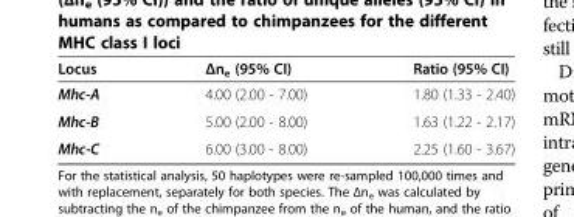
<table><thead><tr><td>Locus</td><td>Δn<sub>e</sub> (95% CI)</td><td>Ratio (95% CI)</td></tr></thead><tbody><tr><td>Mhc-A</td><td>4.00 (2.00 - 7.00)</td><td>1.80 (1.33 - 2.40)</td></tr><tr><td>Mhc-B</td><td>5.00 (2.00 - 8.00)</td><td>1.63 (1.22 - 2.17)</td></tr><tr><td>Mhc-C</td><td>6.00 (3.00 - 8.00)</td><td>2.25 (1.60 - 3.67)</td></tr></tbody></table>